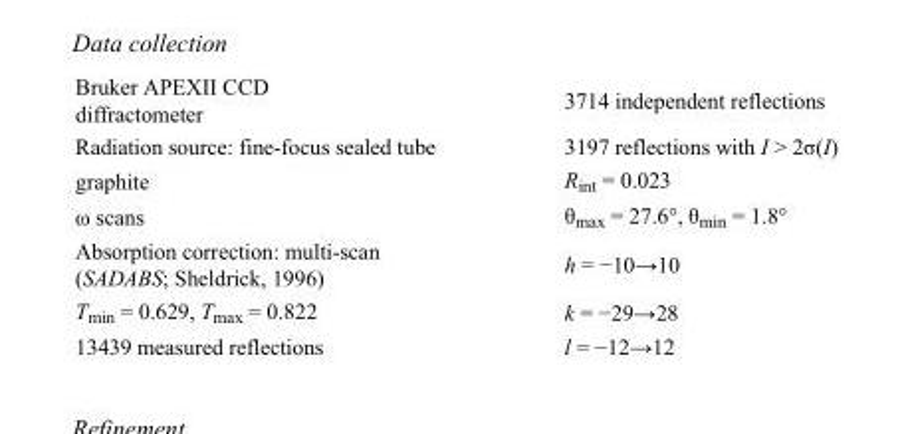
<table><tbody><tr><td>Bruker APEXII CCD diffractometer</td><td>3714 independent reflections</td></tr><tr><td>Radiation source: fine-focus sealed tube</td><td>3197 reflections with I &gt; 2σ(I)</td></tr><tr><td>graphite</td><td>R<sub>int</sub> = 0.023</td></tr><tr><td>ω scans</td><td>θ<sub>max</sub> = 27.6°, θ<sub>min</sub> = 1.8°</td></tr><tr><td>Absorption correction: multi-scan (SADABS; Sheldrick, 1996)</td><td>h = −10→10</td></tr><tr><td>T<sub>min</sub> = 0.629, T<sub>max</sub> = 0.822</td><td>k = −29→28</td></tr><tr><td>13439 measured reflections</td><td>l = −12→12</td></tr></tbody></table>